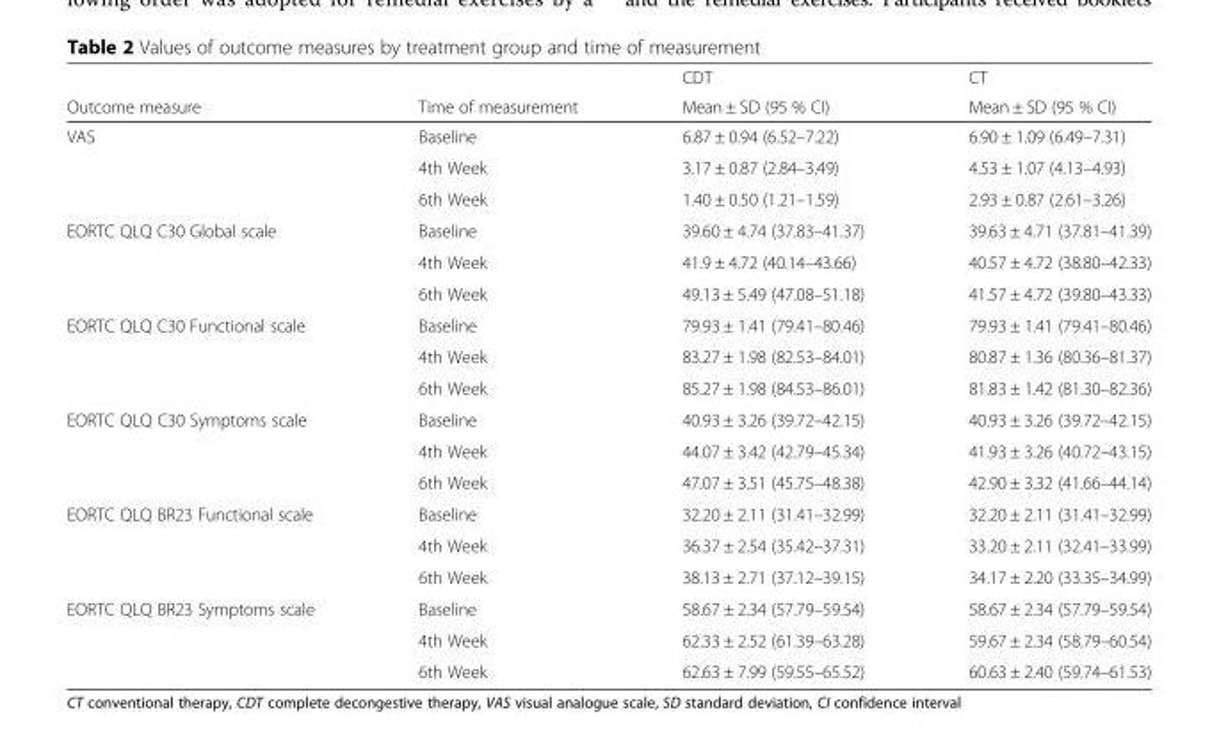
<table><thead><tr><td rowspan="2">Outcome measure</td><td rowspan="2">Time of measurement</td><td rowspan="2">CDT Mean ± SD (95 % CI)</td><td rowspan="2">CT Mean ± SD (95 % CI)</td></tr><tr></tr></thead><tbody><tr><td rowspan="3">VAS</td><td>Baseline</td><td>6.87 ± 0.94 (6.52–7.22)</td><td>6.90 ± 1.09 (6.49–7.31)</td></tr><tr><td>4th Week</td><td>3.17 ± 0.87 (2.84–3.49)</td><td>4.53 ± 1.07 (4.13–4.93)</td></tr><tr><td>6th Week</td><td>1.40 ± 0.50 (1.21–1.59)</td><td>2.93 ± 0.87 (2.61–3.26)</td></tr><tr><td rowspan="3">EORTC QLQ C30 Global scale</td><td>Baseline</td><td>39.60 ± 4.74 (37.83–41.37)</td><td>39.63 ± 4.71 (37.81–41.39)</td></tr><tr><td>4th Week</td><td>41.9 ± 4.72 (40.14–43.66)</td><td>40.57 ± 4.72 (38.80–42.33)</td></tr><tr><td>6th Week</td><td>49.13 ± 5.49 (47.08–51.18)</td><td>41.57 ± 4.72 (39.80–43.33)</td></tr><tr><td rowspan="3">EORTC QLQ C30 Functional scale</td><td>Baseline</td><td>79.93 ± 1.41 (79.41–80.46)</td><td>79.93 ± 1.41 (79.41–80.46)</td></tr><tr><td>4th Week</td><td>83.27 ± 1.98 (82.53–84.01)</td><td>80.87 ± 1.36 (80.36–81.37)</td></tr><tr><td>6th Week</td><td>85.27 ± 1.98 (84.53–86.01)</td><td>81.83 ± 1.42 (81.30–82.36)</td></tr><tr><td rowspan="3">EORTC QLQ C30 Symptoms scale</td><td>Baseline</td><td>40.93 ± 3.26 (39.72–42.15)</td><td>40.93 ± 3.26 (39.72–42.15)</td></tr><tr><td>4th Week</td><td>44.07 ± 3.42 (42.79–45.34)</td><td>41.93 ± 3.26 (40.72–43.15)</td></tr><tr><td>6th Week</td><td>47.07 ± 3.51 (45.75–48.38)</td><td>42.90 ± 3.32 (41.66–44.14)</td></tr><tr><td rowspan="3">EORTC QLQ BR23 Functional scale</td><td>Baseline</td><td>32.20 ± 2.11 (31.41–32.99)</td><td>32.20 ± 2.11 (31.41–32.99)</td></tr><tr><td>4th Week</td><td>36.37 ± 2.54 (35.42–37.31)</td><td>33.20 ± 2.11 (32.41–33.99)</td></tr><tr><td>6th Week</td><td>38.13 ± 2.71 (37.12–39.15)</td><td>34.17 ± 2.20 (33.35–34.99)</td></tr><tr><td rowspan="3">EORTC QLQ BR23 Symptoms scale</td><td>Baseline</td><td>58.67 ± 2.34 (57.79–59.54)</td><td>58.67 ± 2.34 (57.79–59.54)</td></tr><tr><td>4th Week</td><td>62.33 ± 2.52 (61.39–63.28)</td><td>59.67 ± 2.34 (58.79–60.54)</td></tr><tr><td>6th Week</td><td>62.63 ± 7.99 (59.55–65.52)</td><td>60.63 ± 2.40 (59.74–61.53)</td></tr></tbody></table>